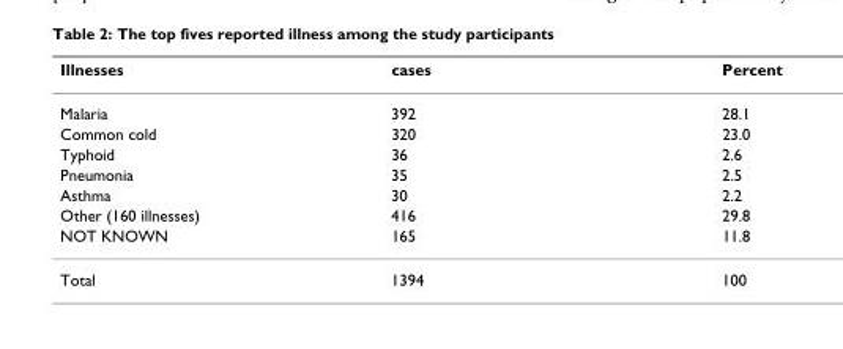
<table><thead><tr><td>Illnesses</td><td>cases</td><td>Percent</td></tr></thead><tbody><tr><td>Malaria</td><td>392</td><td>28.1</td></tr><tr><td>Common cold</td><td>320</td><td>23.0</td></tr><tr><td>Typhoid</td><td>36</td><td>2.6</td></tr><tr><td>Pneumonia</td><td>35</td><td>2.5</td></tr><tr><td>Asthma</td><td>30</td><td>2.2</td></tr><tr><td>Other (160 illnesses)</td><td>416</td><td>29.8</td></tr><tr><td>NOT KNOWN</td><td>165</td><td>11.8</td></tr><tr><td>Total</td><td>1394</td><td>100</td></tr></tbody></table>